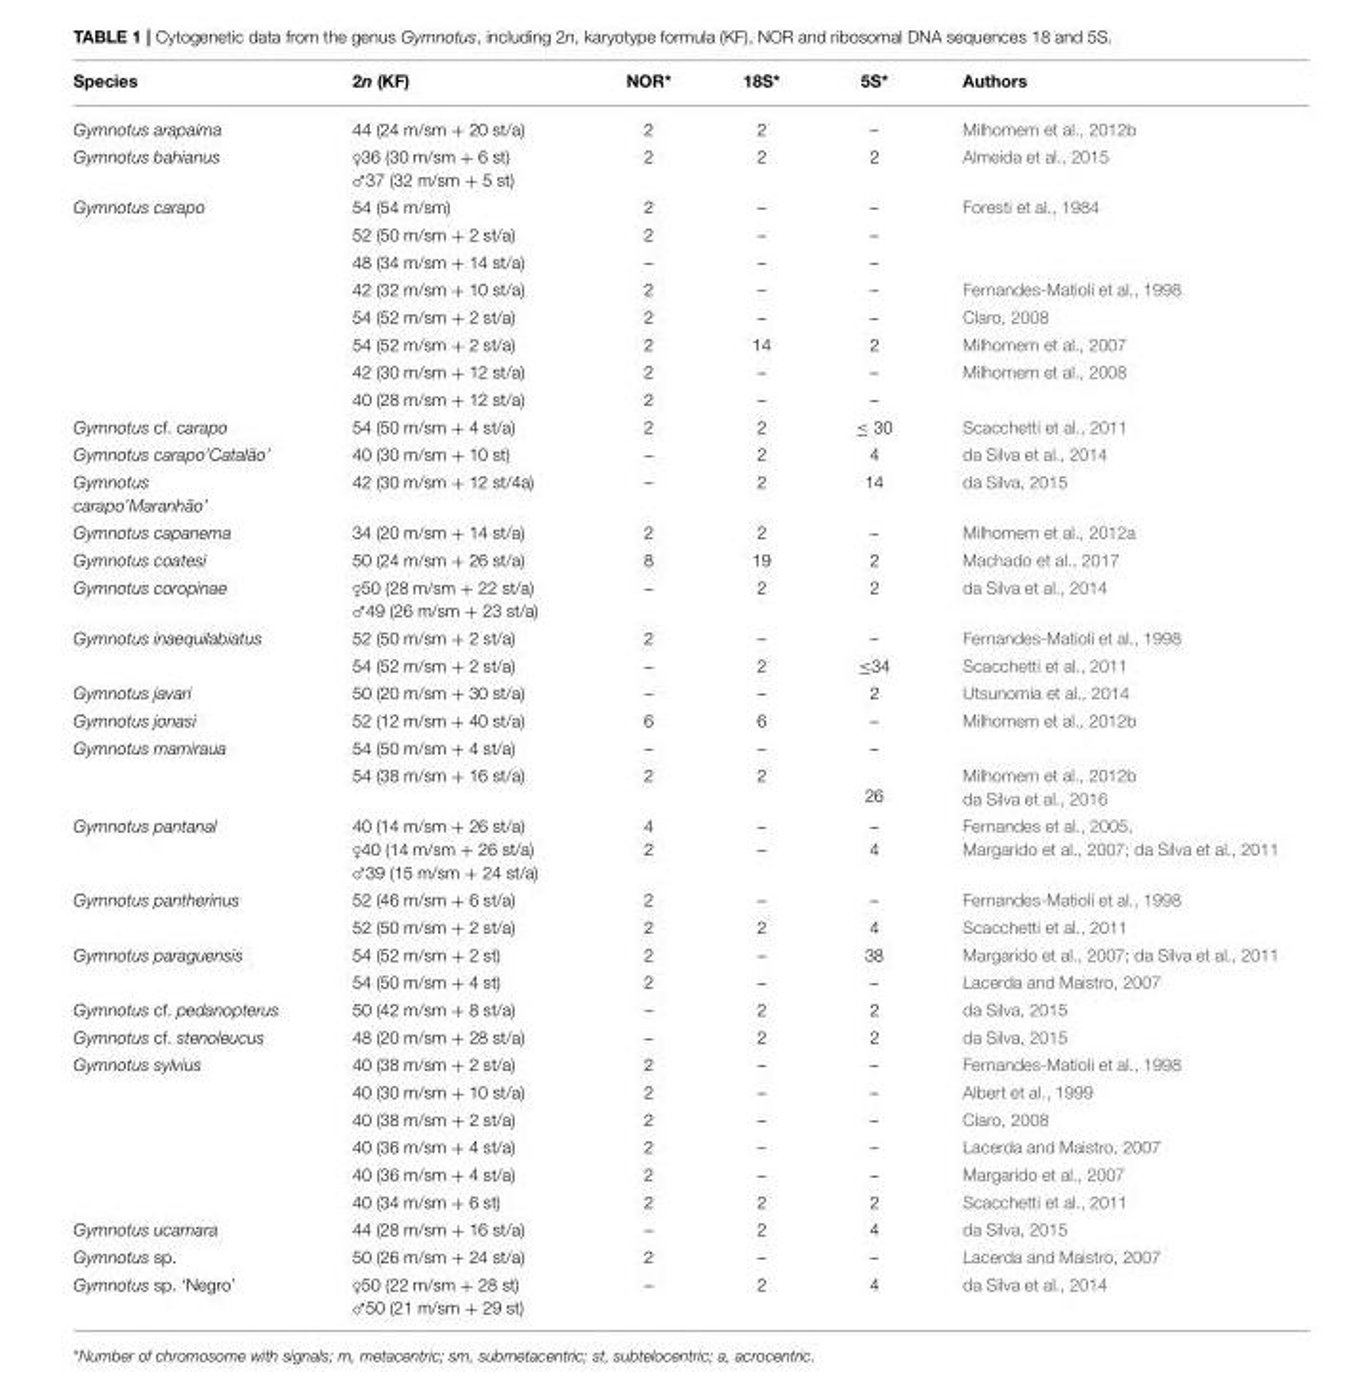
<table><thead><tr><td>Species</td><td>2n (KF)</td><td>NOR*</td><td>18S*</td><td>5S*</td><td>Authors</td></tr></thead><tbody><tr><td>Gymnotus arapaima</td><td>44 (24 m/sm + 20 st/a)</td><td>2</td><td>2</td><td>–</td><td>Milhomem et al., 2012b</td></tr><tr><td>Gymnotus bahianus</td><td>♀36 (30 m/sm + 6 st) ♂37 (32 m/sm + 5 st)</td><td>2</td><td>2</td><td>2</td><td>Almeida et al., 2015</td></tr><tr><td rowspan="8">Gymnotus carapo</td><td>54 (54 m/sm)</td><td>2</td><td>–</td><td>–</td><td>Foresti et al., 1984</td></tr><tr><td>52 (50 m/sm + 2 st/a)</td><td>2</td><td>–</td><td>–</td><td></td></tr><tr><td>48 (34 m/sm + 14 st/a)</td><td>–</td><td>–</td><td>–</td><td></td></tr><tr><td>42 (32 m/sm + 10 st/a)</td><td>2</td><td>–</td><td>–</td><td>Fernandes-Matioli et al., 1998</td></tr><tr><td>54 (52 m/sm + 2 st/a)</td><td>2</td><td>–</td><td>–</td><td>Claro, 2008</td></tr><tr><td>54 (52 m/sm + 2 st/a)</td><td>2</td><td>14</td><td>2</td><td>Milhomem et al., 2007</td></tr><tr><td>42 (30 m/sm + 12 st/a)</td><td>2</td><td>–</td><td>–</td><td>Milhomem et al., 2008</td></tr><tr><td>40 (28 m/sm + 12 st/a)</td><td>2</td><td>–</td><td>–</td><td></td></tr><tr><td>Gymnotus cf. carapo</td><td>54 (50 m/sm + 4 st/a)</td><td>2</td><td>2</td><td>≤ 30</td><td>Scacchetti et al., 2011</td></tr><tr><td>Gymnotus carapo’Catalão’</td><td>40 (30 m/sm + 10 st)</td><td>–</td><td>2</td><td>4</td><td>da Silva et al., 2014</td></tr><tr><td>Gymnotus carapo’Maranhão’</td><td>42 (30 m/sm + 12 st/4a)</td><td>–</td><td>2</td><td>14</td><td>da Silva, 2015</td></tr><tr><td>Gymnotus capanema</td><td>34 (20 m/sm + 14 st/a)</td><td>2</td><td>2</td><td>–</td><td>Milhomem et al., 2012a</td></tr><tr><td>Gymnotus coatesi</td><td>50 (24 m/sm + 26 st/a)</td><td>8</td><td>19</td><td>2</td><td>Machado et al., 2017</td></tr><tr><td>Gymnotus coropinae</td><td>♀50 (28 m/sm + 22 st/a) ♂49 (26 m/sm + 23 st/a)</td><td>–</td><td>2</td><td>2</td><td>da Silva et al., 2014</td></tr><tr><td rowspan="2">Gymnotus inaequilabiatus</td><td>52 (50 m/sm + 2 st/a)</td><td>2</td><td>–</td><td>–</td><td>Fernandes-Matioli et al., 1998</td></tr><tr><td>54 (52 m/sm + 2 st/a)</td><td>–</td><td>2</td><td>≤34</td><td>Scacchetti et al., 2011</td></tr><tr><td>Gymnotus javari</td><td>50 (20 m/sm + 30 st/a)</td><td>–</td><td>–</td><td>2</td><td>Utsunomia et al., 2014</td></tr><tr><td>Gymnotus jonasi</td><td>52 (12 m/sm + 40 st/a)</td><td>6</td><td>6</td><td>–</td><td>Milhomem et al., 2012b</td></tr><tr><td rowspan="2">Gymnotus mamiraua</td><td>54 (50 m/sm + 4 st/a)</td><td>–</td><td>–</td><td>–</td><td></td></tr><tr><td>54 (38 m/sm + 16 st/a)</td><td>2</td><td>2</td><td>26</td><td>Milhomem et al., 2012b da Silva et al., 2016</td></tr><tr><td>Gymnotus pantanal</td><td>40 (14 m/sm + 26 st/a) ♀40 (14 m/sm + 26 st/a) ♂39 (15 m/sm + 24 st/a)</td><td>4 2</td><td>– –</td><td>– 4</td><td>Fernandes et al., 2005. Margarido et al., 2007; da Silva et al., 2011</td></tr><tr><td rowspan="2">Gymnotus pantherinus</td><td>52 (46 m/sm + 6 st/a)</td><td>2</td><td>–</td><td>–</td><td>Fernandes-Matioli et al., 1998</td></tr><tr><td>52 (50 m/sm + 2 st/a)</td><td>2</td><td>2</td><td>4</td><td>Scacchetti et al., 2011</td></tr><tr><td rowspan="2">Gymnotus paraguensis</td><td>54 (52 m/sm + 2 st)</td><td>2</td><td>–</td><td>38</td><td>Margarido et al., 2007; da Silva et al., 2011</td></tr><tr><td>54 (50 m/sm + 4 st)</td><td>2</td><td>–</td><td>–</td><td>Lacerda and Maistro, 2007</td></tr><tr><td>Gymnotus cf. pedanopterus</td><td>50 (42 m/sm + 8 st/a)</td><td>–</td><td>2</td><td>2</td><td>da Silva, 2015</td></tr><tr><td>Gymnotus cf. stenoleucus</td><td>48 (20 m/sm + 28 st/a)</td><td>–</td><td>2</td><td>2</td><td>da Silva, 2015</td></tr><tr><td rowspan="6">Gymnotus sylvius</td><td>40 (38 m/sm + 2 st/a)</td><td>2</td><td>–</td><td>–</td><td>Fernandes-Matioli et al., 1998</td></tr><tr><td>40 (30 m/sm + 10 st/a)</td><td>2</td><td>–</td><td>–</td><td>Albert et al., 1999</td></tr><tr><td>40 (38 m/sm + 2 st/a)</td><td>2</td><td>–</td><td>–</td><td>Claro, 2008</td></tr><tr><td>40 (36 m/sm + 4 st/a)</td><td>2</td><td>–</td><td>–</td><td>Lacerda and Maistro, 2007</td></tr><tr><td>40 (36 m/sm + 4 st/a)</td><td>2</td><td>–</td><td>–</td><td>Margarido et al., 2007</td></tr><tr><td>40 (34 m/sm + 6 st)</td><td>2</td><td>2</td><td>2</td><td>Scacchetti et al., 2011</td></tr><tr><td>Gymnotus ucamara</td><td>44 (28 m/sm + 16 st/a)</td><td>–</td><td>2</td><td>4</td><td>da Silva, 2015</td></tr><tr><td>Gymnotus sp.</td><td>50 (26 m/sm + 24 st/a)</td><td>2</td><td>–</td><td>–</td><td>Lacerda and Maistro, 2007</td></tr><tr><td>Gymnotus sp. ‘Negro’</td><td>♀50 (22 m/sm + 28 st) ♂50 (21 m/sm + 29 st)</td><td>–</td><td>2</td><td>4</td><td>da Silva et al., 2014</td></tr></tbody></table>